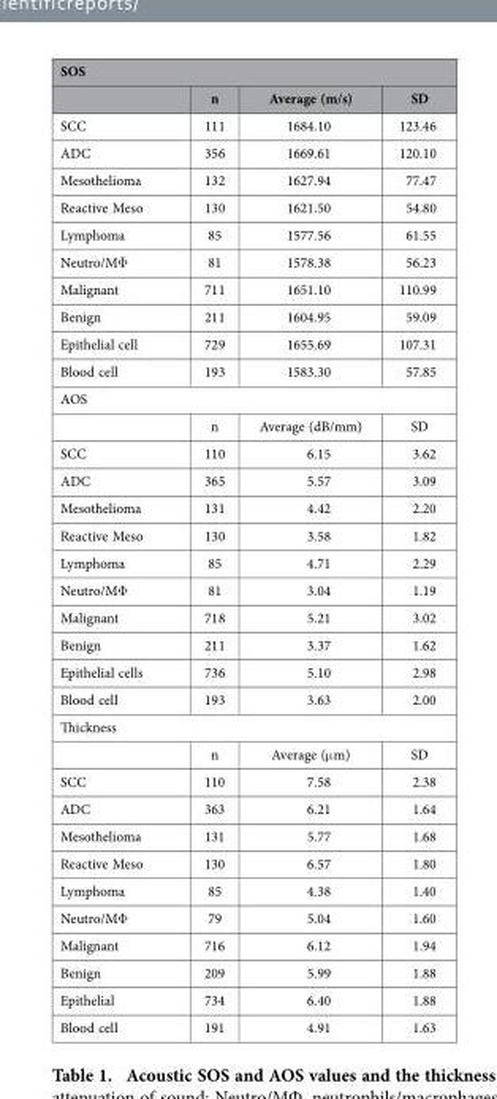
<table><thead><tr><td colspan="4">SOS</td></tr><tr><td></td><td>n</td><td>Average (m/s)</td><td>SD</td></tr></thead><tbody><tr><td>SCC</td><td>111</td><td>1684.10</td><td>123.46</td></tr><tr><td>ADC</td><td>356</td><td>1669.61</td><td>120.10</td></tr><tr><td>Mesothelioma</td><td>132</td><td>1627.94</td><td>77.47</td></tr><tr><td>Reactive Meso</td><td>130</td><td>1621.50</td><td>54.80</td></tr><tr><td>Lymphoma</td><td>85</td><td>1577.56</td><td>61.55</td></tr><tr><td>Neutro/MΦ</td><td>81</td><td>1578.38</td><td>56.23</td></tr><tr><td>Malignant</td><td>711</td><td>1651.10</td><td>110.99</td></tr><tr><td>Benign</td><td>211</td><td>1604.95</td><td>59.09</td></tr><tr><td>Epithelial cell</td><td>729</td><td>1655.69</td><td>107.31</td></tr><tr><td>Blood cell</td><td>193</td><td>1583.30</td><td>57.85</td></tr><tr><td colspan="4">AOS</td></tr><tr><td></td><td>n</td><td>Average (dB/mm)</td><td>SD</td></tr><tr><td>SCC</td><td>110</td><td>6.15</td><td>3.62</td></tr><tr><td>ADC</td><td>365</td><td>5.57</td><td>3.09</td></tr><tr><td>Mesothelioma</td><td>131</td><td>4.42</td><td>2.20</td></tr><tr><td>Reactive Meso</td><td>130</td><td>3.58</td><td>1.82</td></tr><tr><td>Lymphoma</td><td>85</td><td>4.71</td><td>2.29</td></tr><tr><td>Neutro/MΦ</td><td>81</td><td>3.04</td><td>1.19</td></tr><tr><td>Malignant</td><td>718</td><td>5.21</td><td>3.02</td></tr><tr><td>Benign</td><td>211</td><td>3.37</td><td>1.62</td></tr><tr><td>Epithelial cells</td><td>736</td><td>5.10</td><td>2.98</td></tr><tr><td>Blood cell</td><td>193</td><td>3.63</td><td>2.00</td></tr><tr><td colspan="4">Thickness</td></tr><tr><td></td><td>n</td><td>Average (μ m)</td><td>SD</td></tr><tr><td>SCC</td><td>110</td><td>7.58</td><td>2.38</td></tr><tr><td>ADC</td><td>363</td><td>6.21</td><td>1.64</td></tr><tr><td>Mesothelioma</td><td>131</td><td>5.77</td><td>1.68</td></tr><tr><td>Reactive Meso</td><td>130</td><td>6.57</td><td>1.80</td></tr><tr><td>Lymphoma</td><td>85</td><td>4.38</td><td>1.40</td></tr><tr><td>Neutro/MΦ</td><td>79</td><td>5.04</td><td>1.60</td></tr><tr><td>Malignant</td><td>716</td><td>6.12</td><td>1.94</td></tr><tr><td>Benign</td><td>209</td><td>5.99</td><td>1.88</td></tr><tr><td>Epithelial</td><td>734</td><td>6.40</td><td>1.88</td></tr><tr><td>Blood cell</td><td>191</td><td>4.91</td><td>1.63</td></tr></tbody></table>